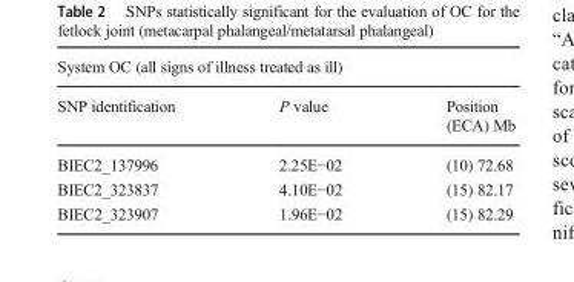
<table><thead><tr><td colspan="3">System OC (all signs of illness treated as ill)</td></tr><tr><td>SNP identification</td><td>P value</td><td>Position (ECA) Mb</td></tr></thead><tbody><tr><td>BIEC2_137996</td><td>2.25E−02</td><td>(10) 72.68</td></tr><tr><td>BIEC2_323837</td><td>4.10E−02</td><td>(15) 82.17</td></tr><tr><td>BIEC2_323907</td><td>1.96E−02</td><td>(15) 82.29</td></tr></tbody></table>